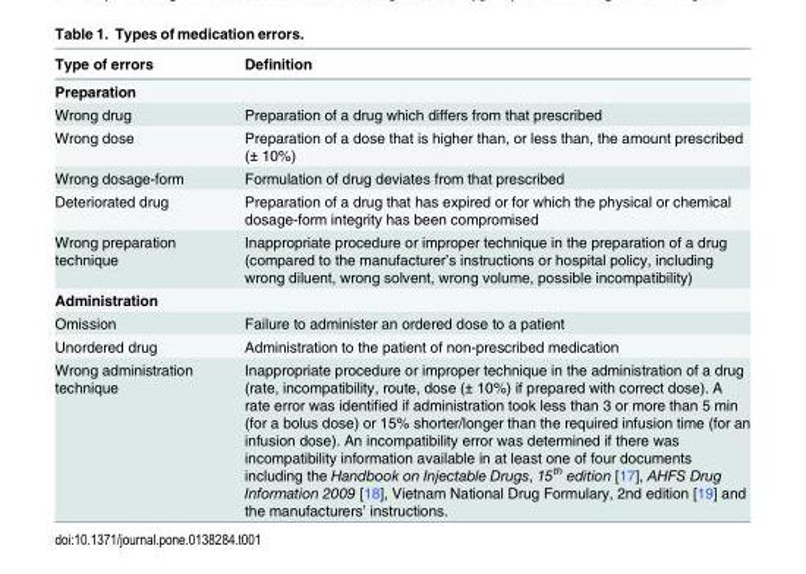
<table><thead><tr><td>Type of errors</td><td>Definition</td></tr></thead><tbody><tr><td colspan="2">Preparation</td></tr><tr><td>Wrong drug</td><td>Preparation of a drug which differs from that prescribed</td></tr><tr><td>Wrong dose</td><td>Preparation of a dose that is higher than, or less than, the amount prescribed (± 10%)</td></tr><tr><td>Wrong dosage-form</td><td>Formulation of drug deviates from that prescribed</td></tr><tr><td>Deteriorated drug</td><td>Preparation of a drug that has expired or for which the physical or chemical dosage-form integrity has been compromised</td></tr><tr><td>Wrong preparation technique</td><td>Inappropriate procedure or improper technique in the preparation of a drug (compared to the manufacturer’s instructions or hospital policy, including wrong diluent, wrong solvent, wrong volume, possible incompatibility)</td></tr><tr><td colspan="2">Administration</td></tr><tr><td>Omission</td><td>Failure to administer an ordered dose to a patient</td></tr><tr><td>Unordered drug</td><td>Administration to the patient of non-prescribed medication</td></tr><tr><td>Wrong administration technique</td><td>Inappropriate procedure or improper technique in the administration of a drug (rate, incompatibility, route, dose (± 10%) if prepared with correct dose). A rate error was identified if administration took less than 3 or more than 5 min (for a bolus dose) or 15% shorter/longer than the required infusion time (for an infusion dose). An incompatibility error was determined if there was incompatibility information available in at least one of four documents including the Handbook on Injectable Drugs, 15<sup>th</sup> edition [17], AHFS Drug Information 2009 [18], Vietnam National Drug Formulary, 2nd edition [19] and the manufacturers’ instructions.</td></tr></tbody></table>